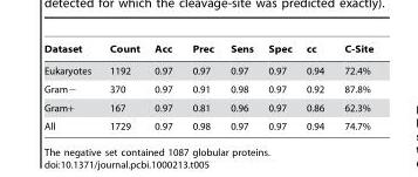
<table><thead><tr><td>Dataset</td><td>Count</td><td>Acc</td><td>Prec</td><td>Sens</td><td>Spec</td><td>cc</td><td>C-Site</td></tr></thead><tbody><tr><td>Eukaryotes</td><td>1192</td><td>0.97</td><td>0.97</td><td>0.97</td><td>0.97</td><td>0.94</td><td>72.4%</td></tr><tr><td>Gram−</td><td>370</td><td>0.97</td><td>0.91</td><td>0.98</td><td>0.97</td><td>0.92</td><td>87.8%</td></tr><tr><td>Gram+</td><td>167</td><td>0.97</td><td>0.81</td><td>0.96</td><td>0.97</td><td>0.86</td><td>62.3%</td></tr><tr><td>All</td><td>1729</td><td>0.97</td><td>0.98</td><td>0.97</td><td>0.97</td><td>0.94</td><td>74.7%</td></tr></tbody></table>